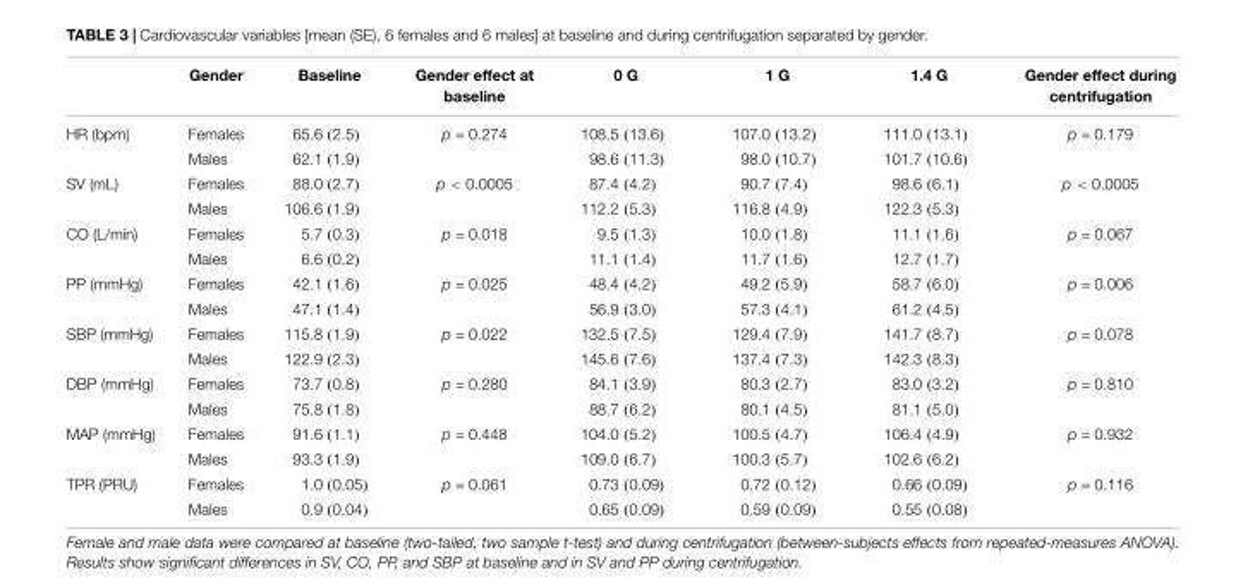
<table><thead><tr><td></td><td>Gender</td><td>Baseline</td><td>Gender effect at baseline</td><td>0 G</td><td>1 G</td><td>1.4 G</td><td>Gender effect during centrifugation</td></tr></thead><tbody><tr><td rowspan="2">HR (bpm)</td><td>Females</td><td>65.6 (2.5)</td><td>p = 0.274</td><td>108.5 (13.6)</td><td>107.0 (13.2)</td><td>111.0 (13.1)</td><td>p = 0.179</td></tr><tr><td>Males</td><td>62.1 (1.9)</td><td></td><td>98.6 (11.3)</td><td>98.0 (10.7)</td><td>101.7 (10.6)</td><td></td></tr><tr><td rowspan="2">SV (mL)</td><td>Females</td><td>88.0 (2.7)</td><td>p &lt; 0.0005</td><td>87.4 (4.2)</td><td>90.7 (7.4)</td><td>98.6 (6.1)</td><td>p &lt; 0.0005</td></tr><tr><td>Males</td><td>106.6 (1.9)</td><td></td><td>112.2 (5.3)</td><td>116.8 (4.9)</td><td>122.3 (5.3)</td><td></td></tr><tr><td rowspan="2">CO (L/min)</td><td>Females</td><td>5.7 (0.3)</td><td>p = 0.018</td><td>9.5 (1.3)</td><td>10.0 (1.8)</td><td>11.1 (1.6)</td><td>p = 0.067</td></tr><tr><td>Males</td><td>6.6 (0.2)</td><td></td><td>11.1 (1.4)</td><td>11.7 (1.6)</td><td>12.7 (1.7)</td><td></td></tr><tr><td rowspan="2">PP (mmHg)</td><td>Females</td><td>42.1 (1.6)</td><td>p = 0.025</td><td>48.4 (4.2)</td><td>49.2 (5.9)</td><td>58.7 (6.0)</td><td>p = 0.006</td></tr><tr><td>Males</td><td>47.1 (1.4)</td><td></td><td>56.9 (3.0)</td><td>57.3 (4.1)</td><td>61.2 (4.5)</td><td></td></tr><tr><td rowspan="2">SBP (mmHg)</td><td>Females</td><td>115.8 (1.9)</td><td>p = 0.022</td><td>132.5 (7.5)</td><td>129.4 (7.9)</td><td>141.7 (8.7)</td><td>p = 0.078</td></tr><tr><td>Males</td><td>122.9 (2.3)</td><td></td><td>145.6 (7.6)</td><td>137.4 (7.3)</td><td>142.3 (8.3)</td><td></td></tr><tr><td rowspan="2">DBP (mmHg)</td><td>Females</td><td>73.7 (0.8)</td><td>p = 0.280</td><td>84.1 (3.9)</td><td>80.3 (2.7)</td><td>83.0 (3.2)</td><td>p = 0.810</td></tr><tr><td>Males</td><td>75.8 (1.8)</td><td></td><td>88.7 (6.2)</td><td>80.1 (4.5)</td><td>81.1 (5.0)</td><td></td></tr><tr><td rowspan="2">MAP (mmHg)</td><td>Females</td><td>91.6 (1.1)</td><td>p = 0.448</td><td>104.0 (5.2)</td><td>100.5 (4.7)</td><td>106.4 (4.9)</td><td>p = 0.932</td></tr><tr><td>Males</td><td>93.3 (1.9)</td><td></td><td>109.0 (6.7)</td><td>100.3 (5.7)</td><td>102.6 (6.2)</td><td></td></tr><tr><td rowspan="2">TPR (PRU)</td><td>Females</td><td>1.0 (0.05)</td><td>p = 0.061</td><td>0.73 (0.09)</td><td>0.72 (0.12)</td><td>0.66 (0.09)</td><td>p = 0.116</td></tr><tr><td>Males</td><td>0.9 (0.04)</td><td></td><td>0.65 (0.09)</td><td>0.59 (0.09)</td><td>0.55 (0.08)</td><td></td></tr></tbody></table>